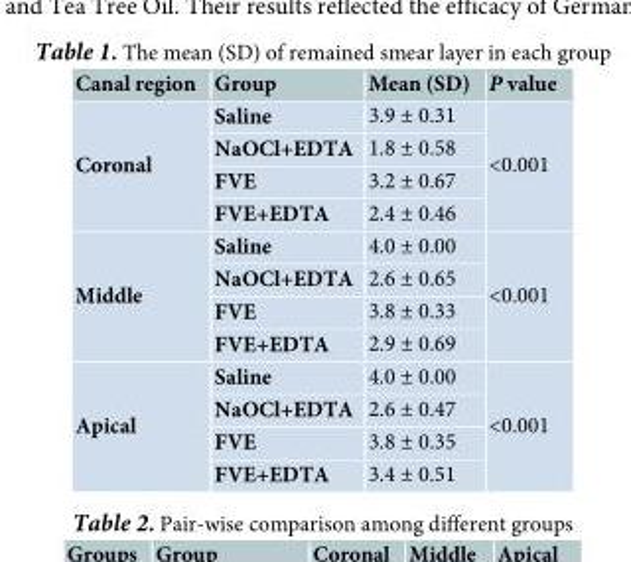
<table><thead><tr><td>Canal region</td><td>Group</td><td>Mean (SD)</td><td>P value</td></tr></thead><tbody><tr><td rowspan="4">Coronal</td><td>Saline</td><td>3.9 ± 0.31</td><td rowspan="4">&lt;0.001</td></tr><tr><td>NaOCl+EDTA</td><td>1.8 ± 0.58</td></tr><tr><td>FVE</td><td>3.2 ± 0.67</td></tr><tr><td>FVE+EDTA</td><td>2.4 ± 0.46</td></tr><tr><td rowspan="4">Middle</td><td>Saline</td><td>4.0 ± 0.00</td><td rowspan="4">&lt;0.001</td></tr><tr><td>NaOCl+EDTA</td><td>2.6 ± 0.65</td></tr><tr><td>FVE</td><td>3.8 ± 0.33</td></tr><tr><td>FVE+EDTA</td><td>2.9 ± 0.69</td></tr><tr><td rowspan="4">Apical</td><td>Saline</td><td>4.0 ± 0.00</td><td rowspan="4">&lt;0.001</td></tr><tr><td>NaOCl+EDTA</td><td>2.6 ± 0.47</td></tr><tr><td>FVE</td><td>3.8 ± 0.35</td></tr><tr><td>FVE+EDTA</td><td>3.4 ± 0.51</td></tr></tbody></table>